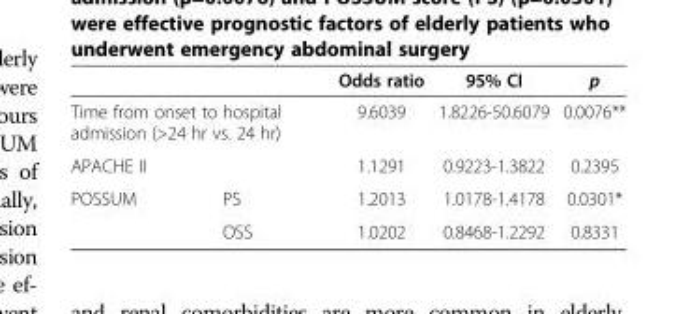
<table><thead><tr><td></td><td></td><td>Odds ratio</td><td>95% CI</td><td>p</td></tr></thead><tbody><tr><td colspan="2">Time from onset to hospital admission (&gt;24 hr vs. 24 hr)</td><td>9.6039</td><td>1.8226-50.6079</td><td>0.0076**</td></tr><tr><td colspan="2">APACHE II</td><td>1.1291</td><td>0.9223-1.3822</td><td>0.2395</td></tr><tr><td rowspan="2">POSSUM</td><td>PS</td><td>1.2013</td><td>1.0178-1.4178</td><td>0.0301*</td></tr><tr><td>OSS</td><td>1.0202</td><td>0.8468-1.2292</td><td>0.8331</td></tr></tbody></table>